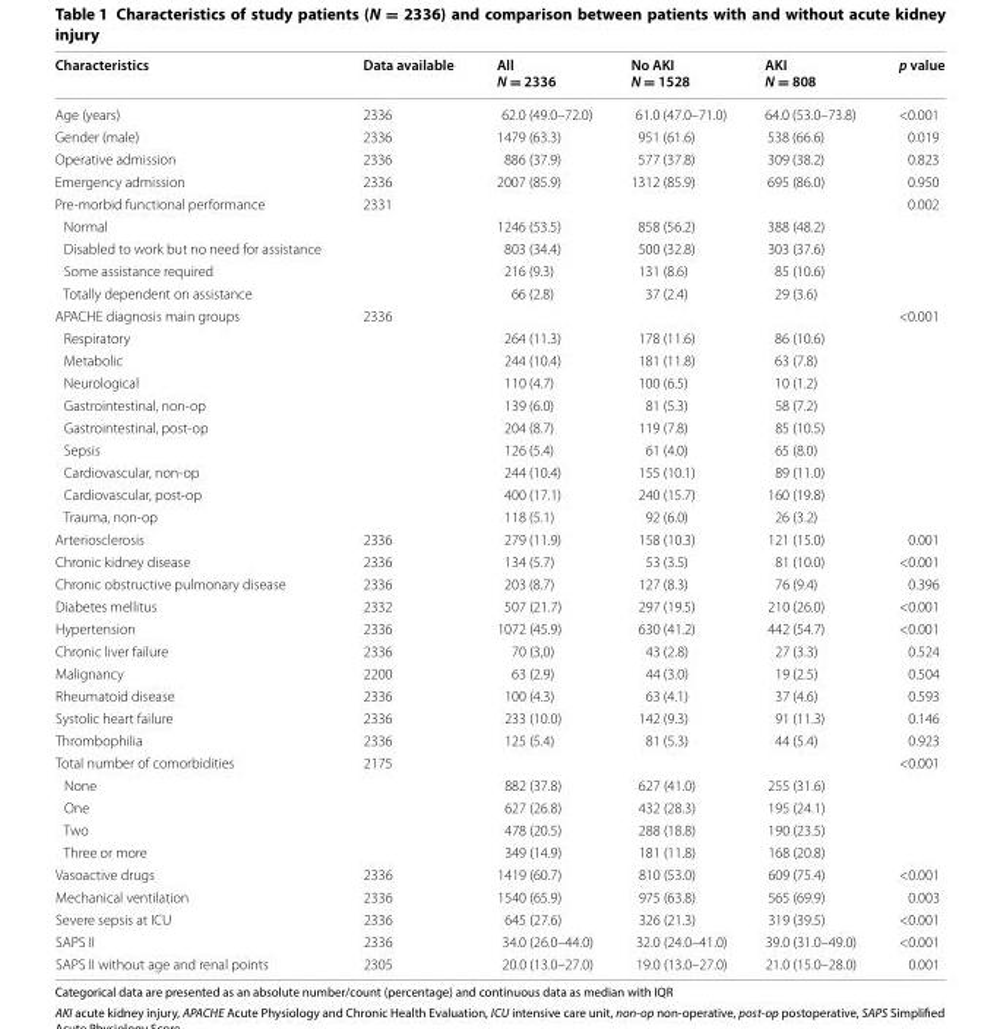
<table><thead><tr><td>Characteristics</td><td>Data available</td><td>All N = 2336</td><td>No AKI N = 1528</td><td>AKI N = 808</td><td>p value</td></tr></thead><tbody><tr><td>Age (years)</td><td>2336</td><td>62.0 (49.0–72.0)</td><td>61.0 (47.0–71.0)</td><td>64.0 (53.0–73.8)</td><td>&lt;0.001</td></tr><tr><td>Gender (male)</td><td>2336</td><td>1479 (63.3)</td><td>951 (61.6)</td><td>538 (66.6)</td><td>0.019</td></tr><tr><td>Operative admission</td><td>2336</td><td>886 (37.9)</td><td>577 (37.8)</td><td>309 (38.2)</td><td>0.823</td></tr><tr><td>Emergency admission</td><td>2336</td><td>2007 (85.9)</td><td>1312 (85.9)</td><td>695 (86.0)</td><td>0.950</td></tr><tr><td>Pre‑morbid functional performance</td><td>2331</td><td></td><td></td><td></td><td>0.002</td></tr><tr><td>Normal</td><td></td><td>1246 (53.5)</td><td>858 (56.2)</td><td>388 (48.2)</td><td></td></tr><tr><td>Disabled to work but no need for assistance</td><td></td><td>803 (34.4)</td><td>500 (32.8)</td><td>303 (37.6)</td><td></td></tr><tr><td>Some assistance required</td><td></td><td>216 (9.3)</td><td>131 (8.6)</td><td>85 (10.6)</td><td></td></tr><tr><td>Totally dependent on assistance</td><td></td><td>66 (2.8)</td><td>37 (2.4)</td><td>29 (3.6)</td><td></td></tr><tr><td>APACHE diagnosis main groups</td><td>2336</td><td></td><td></td><td></td><td>&lt;0.001</td></tr><tr><td>Respiratory</td><td></td><td>264 (11.3)</td><td>178 (11.6)</td><td>86 (10.6)</td><td></td></tr><tr><td>Metabolic</td><td></td><td>244 (10.4)</td><td>181 (11.8)</td><td>63 (7.8)</td><td></td></tr><tr><td>Neurological</td><td></td><td>110 (4.7)</td><td>100 (6.5)</td><td>10 (1.2)</td><td></td></tr><tr><td>Gastrointestinal, non‑op</td><td></td><td>139 (6.0)</td><td>81 (5.3)</td><td>58 (7.2)</td><td></td></tr><tr><td>Gastrointestinal, post‑op</td><td></td><td>204 (8.7)</td><td>119 (7.8)</td><td>85 (10.5)</td><td></td></tr><tr><td>Sepsis</td><td></td><td>126 (5.4)</td><td>61 (4.0)</td><td>65 (8.0)</td><td></td></tr><tr><td>Cardiovascular, non‑op</td><td></td><td>244 (10.4)</td><td>155 (10.1)</td><td>89 (11.0)</td><td></td></tr><tr><td>Cardiovascular, post‑op</td><td></td><td>400 (17.1)</td><td>240 (15.7)</td><td>160 (19.8)</td><td></td></tr><tr><td>Trauma, non‑op</td><td></td><td>118 (5.1)</td><td>92 (6.0)</td><td>26 (3.2)</td><td></td></tr><tr><td>Arteriosclerosis</td><td>2336</td><td>279 (11.9)</td><td>158 (10.3)</td><td>121 (15.0)</td><td>0.001</td></tr><tr><td>Chronic kidney disease</td><td>2336</td><td>134 (5.7)</td><td>53 (3.5)</td><td>81 (10.0)</td><td>&lt;0.001</td></tr><tr><td>Chronic obstructive pulmonary disease</td><td>2336</td><td>203 (8.7)</td><td>127 (8.3)</td><td>76 (9.4)</td><td>0.396</td></tr><tr><td>Diabetes mellitus</td><td>2332</td><td>507 (21.7)</td><td>297 (19.5)</td><td>210 (26.0)</td><td>&lt;0.001</td></tr><tr><td>Hypertension</td><td>2336</td><td>1072 (45.9)</td><td>630 (41.2)</td><td>442 (54.7)</td><td>&lt;0.001</td></tr><tr><td>Chronic liver failure</td><td>2336</td><td>70 (3,0)</td><td>43 (2.8)</td><td>27 (3.3)</td><td>0.524</td></tr><tr><td>Malignancy</td><td>2200</td><td>63 (2.9)</td><td>44 (3.0)</td><td>19 (2.5)</td><td>0.504</td></tr><tr><td>Rheumatoid disease</td><td>2336</td><td>100 (4.3)</td><td>63 (4.1)</td><td>37 (4.6)</td><td>0.593</td></tr><tr><td>Systolic heart failure</td><td>2336</td><td>233 (10.0)</td><td>142 (9.3)</td><td>91 (11.3)</td><td>0.146</td></tr><tr><td>Thrombophilia</td><td>2336</td><td>125 (5.4)</td><td>81 (5.3)</td><td>44 (5.4)</td><td>0.923</td></tr><tr><td>Total number of comorbidities</td><td>2175</td><td></td><td></td><td></td><td>&lt;0.001</td></tr><tr><td>None</td><td></td><td>882 (37.8)</td><td>627 (41.0)</td><td>255 (31.6)</td><td></td></tr><tr><td>One</td><td></td><td>627 (26.8)</td><td>432 (28.3)</td><td>195 (24.1)</td><td></td></tr><tr><td>Two</td><td></td><td>478 (20.5)</td><td>288 (18.8)</td><td>190 (23.5)</td><td></td></tr><tr><td>Three or more</td><td></td><td>349 (14.9)</td><td>181 (11.8)</td><td>168 (20.8)</td><td></td></tr><tr><td>Vasoactive drugs</td><td>2336</td><td>1419 (60.7)</td><td>810 (53.0)</td><td>609 (75.4)</td><td>&lt;0.001</td></tr><tr><td>Mechanical ventilation</td><td>2336</td><td>1540 (65.9)</td><td>975 (63.8)</td><td>565 (69.9)</td><td>0.003</td></tr><tr><td>Severe sepsis at ICU</td><td>2336</td><td>645 (27.6)</td><td>326 (21.3)</td><td>319 (39.5)</td><td>&lt;0.001</td></tr><tr><td>SAPS II</td><td>2336</td><td>34.0 (26.0–44.0)</td><td>32.0 (24.0–41.0)</td><td>39.0 (31.0–49.0)</td><td>&lt;0.001</td></tr><tr><td>SAPS II without age and renal points</td><td>2305</td><td>20.0 (13.0–27.0)</td><td>19.0 (13.0–27.0)</td><td>21.0 (15.0–28.0)</td><td>0.001</td></tr></tbody></table>